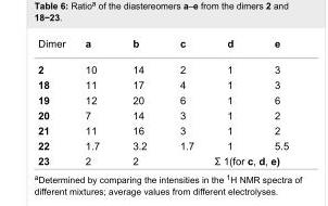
<table><tbody><tr><td>Dimer</td><td>a</td><td>b</td><td>c</td><td>d</td><td>e</td></tr><tr><td>2</td><td>10</td><td>14</td><td>2</td><td>1</td><td>3</td></tr><tr><td>18</td><td>11</td><td>17</td><td>4</td><td>1</td><td>3</td></tr><tr><td>19</td><td>12</td><td>20</td><td>6</td><td>1</td><td>6</td></tr><tr><td>20</td><td>7</td><td>14</td><td>3</td><td>1</td><td>2</td></tr><tr><td>21</td><td>11</td><td>16</td><td>3</td><td>1</td><td>2</td></tr><tr><td>22</td><td>1.7</td><td>3.2</td><td>1.7</td><td>1</td><td>5.5</td></tr><tr><td>23</td><td>2</td><td>2</td><td colspan="3">Σ 1(for c, d, e)</td></tr></tbody></table>